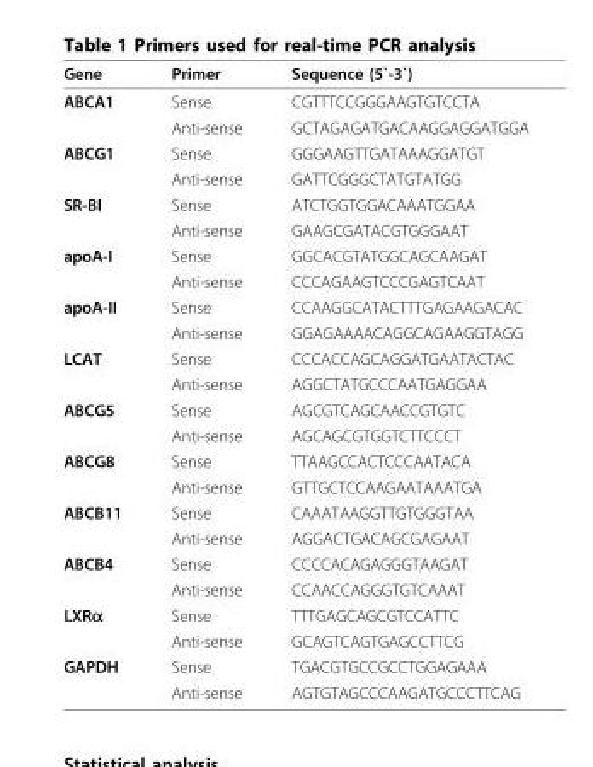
<table><thead><tr><td>Gene</td><td>Primer</td><td>Sequence (5`-3`)</td></tr></thead><tbody><tr><td rowspan="2">ABCA1</td><td>Sense</td><td>CGTTTCCGGGAAGTGTCCTA</td></tr><tr><td>Anti-sense</td><td>GCTAGAGATGACAAGGAGGATGGA</td></tr><tr><td rowspan="2">ABCG1</td><td>Sense</td><td>GGGAAGTTGATAAAGGATGT</td></tr><tr><td>Anti-sense</td><td>GATTCGGGCTATGTATGG</td></tr><tr><td rowspan="2">SR-BI</td><td>Sense</td><td>ATCTGGTGGACAAATGGAA</td></tr><tr><td>Anti-sense</td><td>GAAGCGATACGTGGGAAT</td></tr><tr><td rowspan="2">apoA-I</td><td>Sense</td><td>GGCACGTATGGCAGCAAGAT</td></tr><tr><td>Anti-sense</td><td>CCCAGAAGTCCCGAGTCAAT</td></tr><tr><td rowspan="2">apoA-II</td><td>Sense</td><td>CCAAGGCATACTTTGAGAAGACAC</td></tr><tr><td>Anti-sense</td><td>GGAGAAAACAGGCAGAAGGTAGG</td></tr><tr><td rowspan="2">LCAT</td><td>Sense</td><td>CCCACCAGCAGGATGAATACTAC</td></tr><tr><td>Anti-sense</td><td>AGGCTATGCCCAATGAGGAA</td></tr><tr><td rowspan="2">ABCG5</td><td>Sense</td><td>AGCGTCAGCAACCGTGTC</td></tr><tr><td>Anti-sense</td><td>AGCAGCGTGGTCTTCCCT</td></tr><tr><td rowspan="2">ABCG8</td><td>Sense</td><td>TTAAGCCACTCCCAATACA</td></tr><tr><td>Anti-sense</td><td>GTTGCTCCAAGAATAAATGA</td></tr><tr><td rowspan="2">ABCB11</td><td>Sense</td><td>CAAATAAGGTTGTGGGTAA</td></tr><tr><td>Anti-sense</td><td>AGGACTGACAGCGAGAAT</td></tr><tr><td rowspan="2">ABCB4</td><td>Sense</td><td>CCCCACAGAGGGTAAGAT</td></tr><tr><td>Anti-sense</td><td>CCAACCAGGGTGTCAAAT</td></tr><tr><td rowspan="2">LXRα</td><td>Sense</td><td>TTTGAGCAGCGTCCATTC</td></tr><tr><td>Anti-sense</td><td>GCAGTCAGTGAGCCTTCG</td></tr><tr><td rowspan="2">GAPDH</td><td>Sense</td><td>TGACGTGCCGCCTGGAGAAA</td></tr><tr><td>Anti-sense</td><td>AGTGTAGCCCAAGATGCCCTTCAG</td></tr></tbody></table>